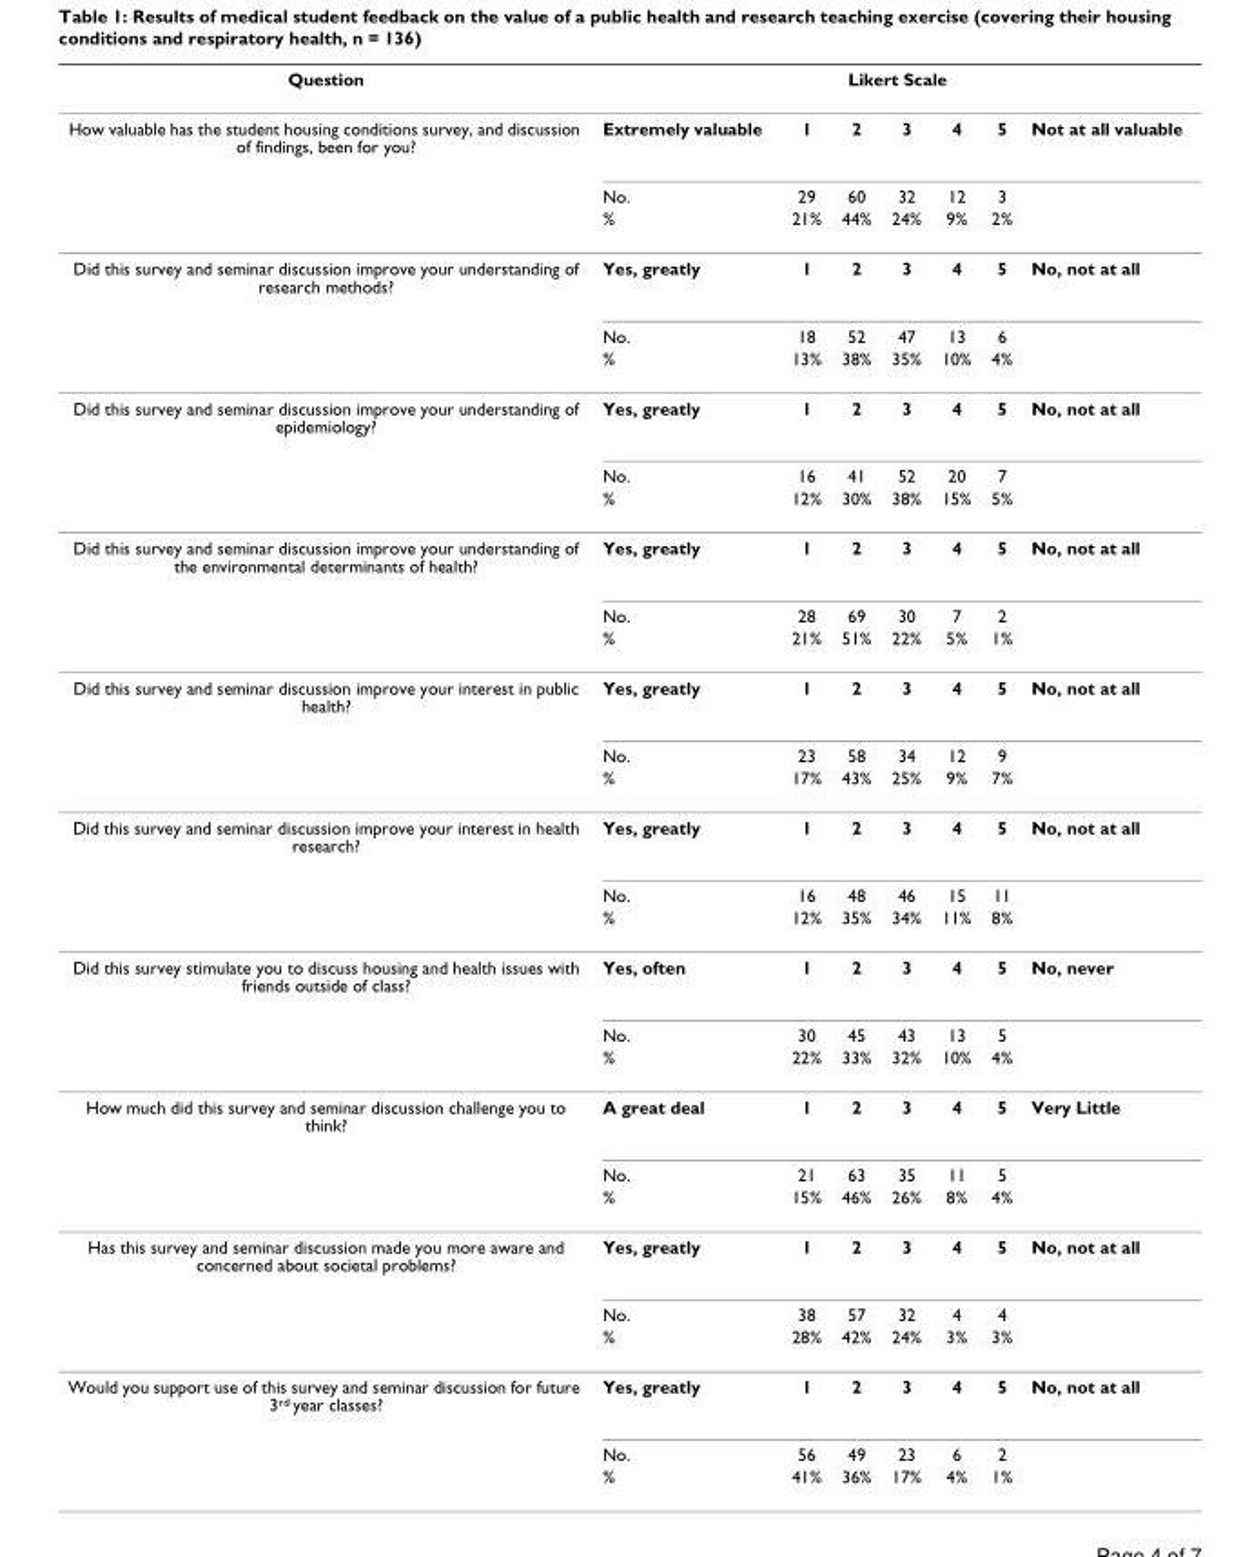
<table><thead><tr><td rowspan="2">Question How valuable has the student housing conditions survey, and discussion of findings, been for you?</td><td colspan="7">Likert Scale</td></tr><tr><td>Extremely valuable</td><td>1</td><td>2</td><td>3</td><td>4</td><td>5</td><td>Not at all valuable</td></tr></thead><tbody><tr><td></td><td>No.</td><td>29</td><td>60</td><td>32</td><td>12</td><td>3</td><td></td></tr><tr><td></td><td>%</td><td>21%</td><td>44%</td><td>24%</td><td>9%</td><td>2%</td><td></td></tr><tr><td rowspan="3">Did this survey and seminar discussion improve your understanding of research methods?</td><td>Yes, greatly</td><td>1</td><td>2</td><td>3</td><td>4</td><td>5</td><td>No, not at all</td></tr><tr><td>No.</td><td>18</td><td>52</td><td>47</td><td>13</td><td>6</td><td></td></tr><tr><td>%</td><td>13%</td><td>38%</td><td>35%</td><td>10%</td><td>4%</td><td></td></tr><tr><td rowspan="3">Did this survey and seminar discussion improve your understanding of epidemiology?</td><td>Yes, greatly</td><td>1</td><td>2</td><td>3</td><td>4</td><td>5</td><td>No, not at all</td></tr><tr><td>No.</td><td>16</td><td>41</td><td>52</td><td>20</td><td>7</td><td></td></tr><tr><td>%</td><td>12%</td><td>30%</td><td>38%</td><td>15%</td><td>5%</td><td></td></tr><tr><td rowspan="3">Did this survey and seminar discussion improve your understanding of the environmental determinants of health?</td><td>Yes, greatly</td><td>1</td><td>2</td><td>3</td><td>4</td><td>5</td><td>No, not at all</td></tr><tr><td>No.</td><td>28</td><td>69</td><td>30</td><td>7</td><td>2</td><td></td></tr><tr><td>%</td><td>21%</td><td>51%</td><td>22%</td><td>5%</td><td>1%</td><td></td></tr><tr><td rowspan="3">Did this survey and seminar discussion improve your interest in public health?</td><td>Yes, greatly</td><td>1</td><td>2</td><td>3</td><td>4</td><td>5</td><td>No, not at all</td></tr><tr><td>No.</td><td>23</td><td>58</td><td>34</td><td>12</td><td>9</td><td></td></tr><tr><td>%</td><td>17%</td><td>43%</td><td>25%</td><td>9%</td><td>7%</td><td></td></tr><tr><td rowspan="3">Did this survey and seminar discussion improve your interest in health research?</td><td>Yes, greatly</td><td>1</td><td>2</td><td>3</td><td>4</td><td>5</td><td>No, not at all</td></tr><tr><td>No.</td><td>16</td><td>48</td><td>46</td><td>15</td><td>11</td><td></td></tr><tr><td>%</td><td>12%</td><td>35%</td><td>34%</td><td>11%</td><td>8%</td><td></td></tr><tr><td rowspan="3">Did this survey stimulate you to discuss housing and health issues with friends outside of class?</td><td>Yes, often</td><td>1</td><td>2</td><td>3</td><td>4</td><td>5</td><td>No, never</td></tr><tr><td>No.</td><td>30</td><td>45</td><td>43</td><td>13</td><td>5</td><td></td></tr><tr><td>%</td><td>22%</td><td>33%</td><td>32%</td><td>10%</td><td>4%</td><td></td></tr><tr><td rowspan="3">How much did this survey and seminar discussion challenge you to think?</td><td>A great deal</td><td>1</td><td>2</td><td>3</td><td>4</td><td>5</td><td>Very Little</td></tr><tr><td>No.</td><td>21</td><td>63</td><td>35</td><td>11</td><td>5</td><td></td></tr><tr><td>%</td><td>15%</td><td>46%</td><td>26%</td><td>8%</td><td>4%</td><td></td></tr><tr><td rowspan="3">Has this survey and seminar discussion made you more aware and concerned about societal problems?</td><td>Yes, greatly</td><td>1</td><td>2</td><td>3</td><td>4</td><td>5</td><td>No, not at all</td></tr><tr><td>No.</td><td>38</td><td>57</td><td>32</td><td>4</td><td>4</td><td></td></tr><tr><td>%</td><td>28%</td><td>42%</td><td>24%</td><td>3%</td><td>3%</td><td></td></tr><tr><td rowspan="3">Would you support use of this survey and seminar discussion for future 3<sup>rd</sup> year classes?</td><td>Yes, greatly</td><td>1</td><td>2</td><td>3</td><td>4</td><td>5</td><td>No, not at all</td></tr><tr><td>No.</td><td>56</td><td>49</td><td>23</td><td>6</td><td>2</td><td></td></tr><tr><td>%</td><td>41%</td><td>36%</td><td>17%</td><td>4%</td><td>1%</td><td></td></tr></tbody></table>